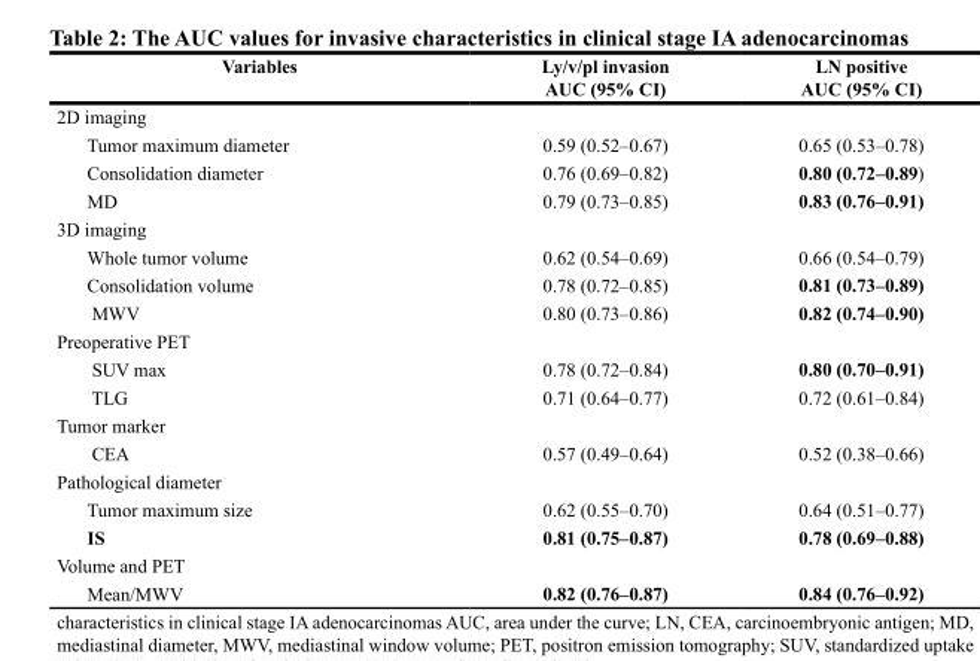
<table><thead><tr><td>Variables</td><td>Ly/v/pl invasion AUC (95% CI)</td><td>LN positive AUC (95% CI)</td></tr></thead><tbody><tr><td colspan="3">2D imaging</td></tr><tr><td>Tumor maximum diameter</td><td>0.59 (0.52–0.67)</td><td>0.65 (0.53–0.78)</td></tr><tr><td>Consolidation diameter</td><td>0.76 (0.69–0.82)</td><td>0.80 (0.72–0.89)</td></tr><tr><td>MD</td><td>0.79 (0.73–0.85)</td><td>0.83 (0.76–0.91)</td></tr><tr><td colspan="3">3D imaging</td></tr><tr><td>Whole tumor volume</td><td>0.62 (0.54–0.69)</td><td>0.66 (0.54–0.79)</td></tr><tr><td>Consolidation volume</td><td>0.78 (0.72–0.85)</td><td>0.81 (0.73–0.89)</td></tr><tr><td>MWV</td><td>0.80 (0.73–0.86)</td><td>0.82 (0.74–0.90)</td></tr><tr><td colspan="3">Preoperative PET</td></tr><tr><td>SUV max</td><td>0.78 (0.72–0.84)</td><td>0.80 (0.70–0.91)</td></tr><tr><td>TLG</td><td>0.71 (0.64–0.77)</td><td>0.72 (0.61–0.84)</td></tr><tr><td colspan="3">Tumor marker</td></tr><tr><td>CEA</td><td>0.57 (0.49–0.64)</td><td>0.52 (0.38–0.66)</td></tr><tr><td colspan="3">Pathological diameter</td></tr><tr><td>Tumor maximum size</td><td>0.62 (0.55–0.70)</td><td>0.64 (0.51–0.77)</td></tr><tr><td>IS</td><td>0.81 (0.75–0.87)</td><td>0.78 (0.69–0.88)</td></tr><tr><td colspan="3">Volume and PET</td></tr><tr><td>Mean/MWV</td><td>0.82 (0.76–0.87)</td><td>0.84 (0.76–0.92)</td></tr></tbody></table>